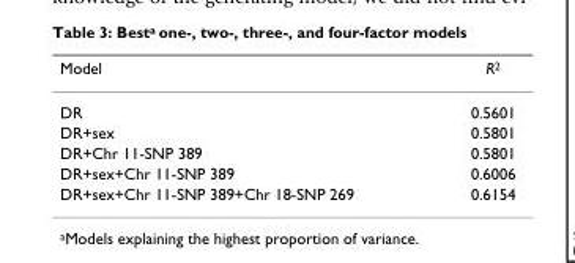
<table><thead><tr><td>Model</td><td>R<sup>2</sup></td></tr></thead><tbody><tr><td>DR</td><td>0.5601</td></tr><tr><td>DR+sex</td><td>0.5801</td></tr><tr><td>DR+Chr 11-SNP 389</td><td>0.5801</td></tr><tr><td>DR+sex+Chr 11-SNP 389</td><td>0.6006</td></tr><tr><td>DR+sex+Chr 11-SNP 389+Chr 18-SNP 269</td><td>0.6154</td></tr></tbody></table>